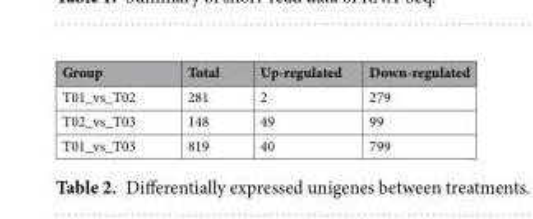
<table><thead><tr><td>Group</td><td>Total</td><td>Up-regulated</td><td>Down-regulated</td></tr></thead><tbody><tr><td>T01_vs_T02</td><td>281</td><td>2</td><td>279</td></tr><tr><td>T02_vs_T03</td><td>148</td><td>49</td><td>99</td></tr><tr><td>T01_vs_T03</td><td>819</td><td>40</td><td>799</td></tr></tbody></table>